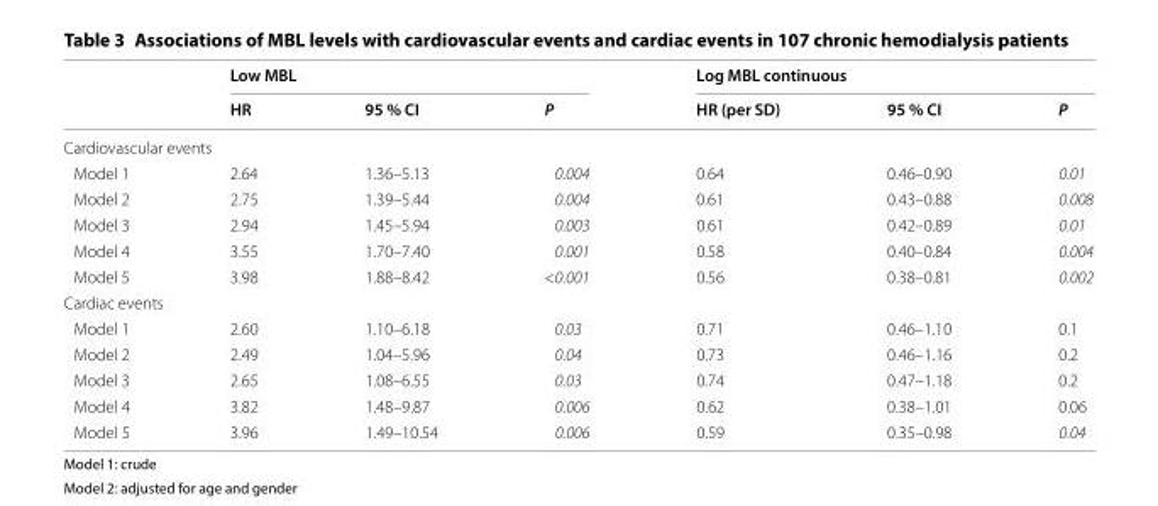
<table><thead><tr><td rowspan="2"></td><td colspan="3">Low MBL</td><td colspan="3">Log MBL continuous</td></tr><tr><td>HR</td><td>95 % CI</td><td>P</td><td>HR (per SD)</td><td>95 % CI</td><td>P</td></tr></thead><tbody><tr><td colspan="7">Cardiovascular events</td></tr><tr><td>Model 1</td><td>2.64</td><td>1.36–5.13</td><td>0.004</td><td>0.64</td><td>0.46–0.90</td><td>0.01</td></tr><tr><td>Model 2</td><td>2.75</td><td>1.39–5.44</td><td>0.004</td><td>0.61</td><td>0.43–0.88</td><td>0.008</td></tr><tr><td>Model 3</td><td>2.94</td><td>1.45–5.94</td><td>0.003</td><td>0.61</td><td>0.42–0.89</td><td>0.01</td></tr><tr><td>Model 4</td><td>3.55</td><td>1.70–7.40</td><td>0.001</td><td>0.58</td><td>0.40–0.84</td><td>0.004</td></tr><tr><td>Model 5</td><td>3.98</td><td>1.88–8.42</td><td>&lt;0.001</td><td>0.56</td><td>0.38–0.81</td><td>0.002</td></tr><tr><td colspan="7">Cardiac events</td></tr><tr><td>Model 1</td><td>2.60</td><td>1.10–6.18</td><td>0.03</td><td>0.71</td><td>0.46–1.10</td><td>0.1</td></tr><tr><td>Model 2</td><td>2.49</td><td>1.04–5.96</td><td>0.04</td><td>0.73</td><td>0.46–1.16</td><td>0.2</td></tr><tr><td>Model 3</td><td>2.65</td><td>1.08–6.55</td><td>0.03</td><td>0.74</td><td>0.47–1.18</td><td>0.2</td></tr><tr><td>Model 4</td><td>3.82</td><td>1.48–9.87</td><td>0.006</td><td>0.62</td><td>0.38–1.01</td><td>0.06</td></tr><tr><td>Model 5</td><td>3.96</td><td>1.49–10.54</td><td>0.006</td><td>0.59</td><td>0.35–0.98</td><td>0.04</td></tr></tbody></table>